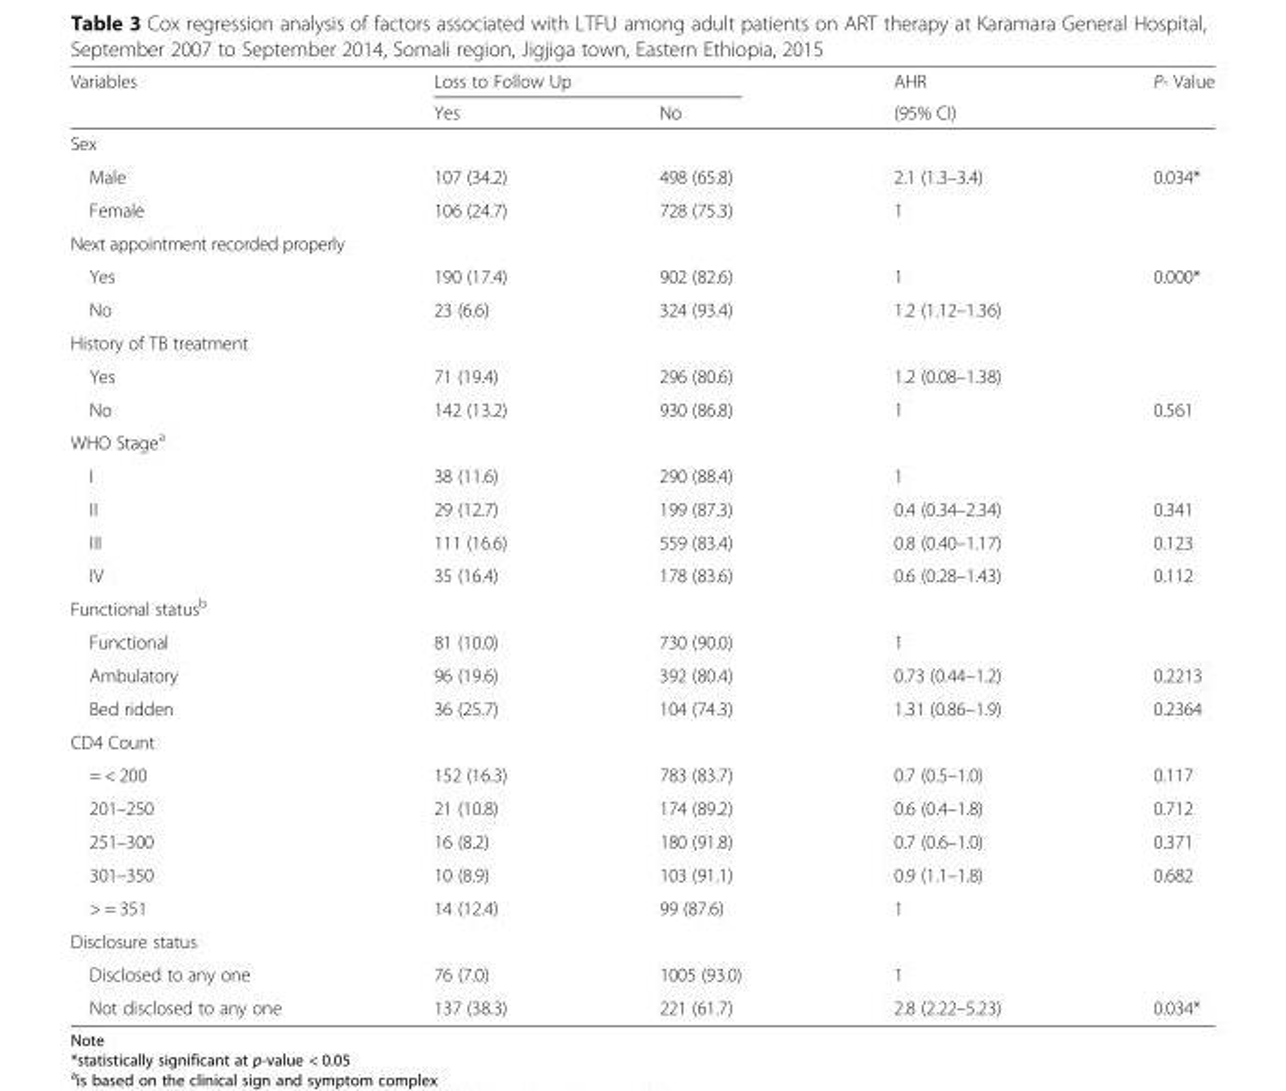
<table><thead><tr><td rowspan="2">Variables</td><td colspan="2">Loss to Follow Up</td><td rowspan="2">AHR (95% CI)</td><td rowspan="2">P- Value</td></tr><tr><td>Yes</td><td>No</td></tr></thead><tbody><tr><td colspan="5">Sex</td></tr><tr><td>Male</td><td>107 (34.2)</td><td>498 (65.8)</td><td>2.1 (1.3–3.4)</td><td>0.034*</td></tr><tr><td>Female</td><td>106 (24.7)</td><td>728 (75.3)</td><td>1</td><td></td></tr><tr><td colspan="5">Next appointment recorded properly</td></tr><tr><td>Yes</td><td>190 (17.4)</td><td>902 (82.6)</td><td>1</td><td>0.000*</td></tr><tr><td>No</td><td>23 (6.6)</td><td>324 (93.4)</td><td>1.2 (1.12–1.36)</td><td></td></tr><tr><td colspan="5">History of TB treatment</td></tr><tr><td>Yes</td><td>71 (19.4)</td><td>296 (80.6)</td><td>1.2 (0.08–1.38)</td><td></td></tr><tr><td>No</td><td>142 (13.2)</td><td>930 (86.8)</td><td>1</td><td>0.561</td></tr><tr><td colspan="5">WHO Stage<sup>a</sup></td></tr><tr><td>I</td><td>38 (11.6)</td><td>290 (88.4)</td><td>1</td><td></td></tr><tr><td>II</td><td>29 (12.7)</td><td>199 (87.3)</td><td>0.4 (0.34–2.34)</td><td>0.341</td></tr><tr><td>III</td><td>111 (16.6)</td><td>559 (83.4)</td><td>0.8 (0.40–1.17)</td><td>0.123</td></tr><tr><td>IV</td><td>35 (16.4)</td><td>178 (83.6)</td><td>0.6 (0.28–1.43)</td><td>0.112</td></tr><tr><td colspan="5">Functional status<sup>b</sup></td></tr><tr><td>Functional</td><td>81 (10.0)</td><td>730 (90.0)</td><td>1</td><td></td></tr><tr><td>Ambulatory</td><td>96 (19.6)</td><td>392 (80.4)</td><td>0.73 (0.44–1.2)</td><td>0.2213</td></tr><tr><td>Bed ridden</td><td>36 (25.7)</td><td>104 (74.3)</td><td>1.31 (0.86–1.9)</td><td>0.2364</td></tr><tr><td colspan="5">CD4 Count</td></tr><tr><td>= &lt; 200</td><td>152 (16.3)</td><td>783 (83.7)</td><td>0.7 (0.5–1.0)</td><td>0.117</td></tr><tr><td>201–250</td><td>21 (10.8)</td><td>174 (89.2)</td><td>0.6 (0.4–1.8)</td><td>0.712</td></tr><tr><td>251–300</td><td>16 (8.2)</td><td>180 (91.8)</td><td>0.7 (0.6–1.0)</td><td>0.371</td></tr><tr><td>301–350</td><td>10 (8.9)</td><td>103 (91.1)</td><td>0.9 (1.1–1.8)</td><td>0.682</td></tr><tr><td>&gt; = 351</td><td>14 (12.4)</td><td>99 (87.6)</td><td>1</td><td></td></tr><tr><td colspan="5">Disclosure status</td></tr><tr><td>Disclosed to any one</td><td>76 (7.0)</td><td>1005 (93.0)</td><td>1</td><td></td></tr><tr><td>Not disclosed to any one</td><td>137 (38.3)</td><td>221 (61.7)</td><td>2.8 (2.22–5.23)</td><td>0.034*</td></tr></tbody></table>